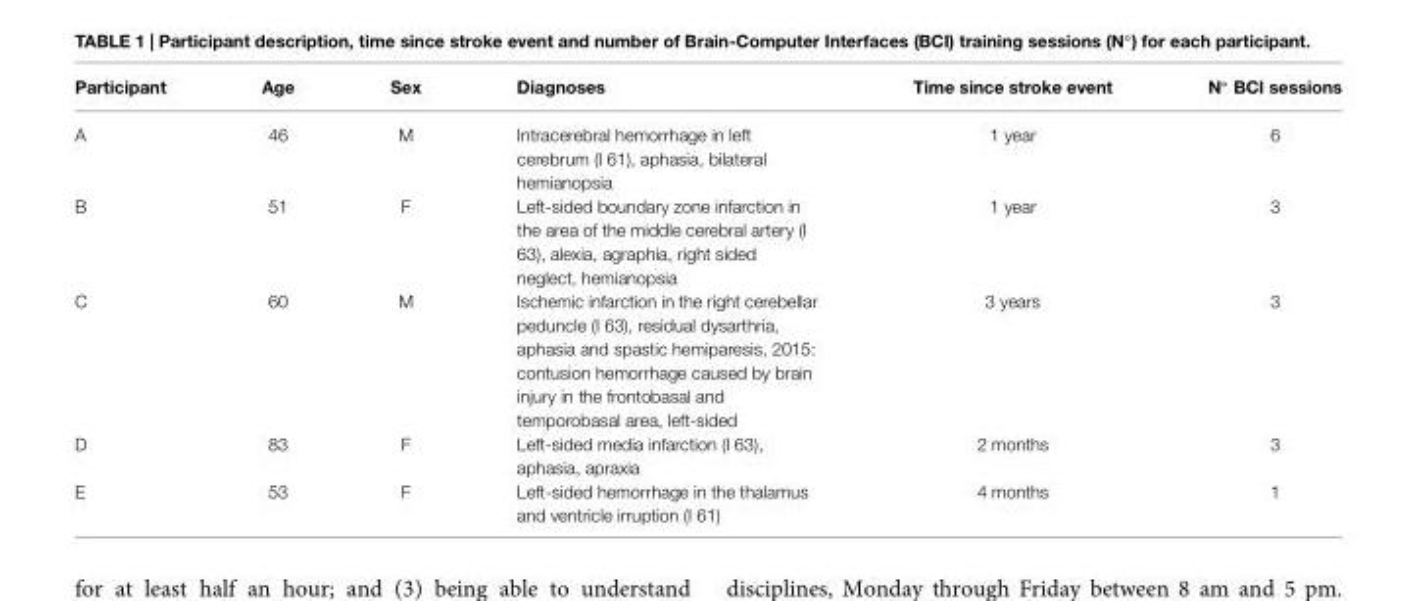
<table><thead><tr><td>Participant</td><td>Age</td><td>Sex</td><td>Diagnoses</td><td>Time since stroke event</td><td>N◦ BCI sessions</td></tr></thead><tbody><tr><td>A</td><td>46</td><td>M</td><td>Intracerebral hemorrhage in left cerebrum (I 61), aphasia, bilateral hemianopsia</td><td>1 year</td><td>6</td></tr><tr><td>B</td><td>51</td><td>F</td><td>Left-sided boundary zone infarction in the area of the middle cerebral artery (I 63), alexia, agraphia, right sided neglect, hemianopsia</td><td>1 year</td><td>3</td></tr><tr><td>C</td><td>60</td><td>M</td><td>Ischemic infarction in the right cerebellar peduncle (I 63), residual dysarthria, aphasia and spastic hemiparesis, 2015: contusion hemorrhage caused by brain injury in the frontobasal and temporobasal area, left-sided</td><td>3 years</td><td>3</td></tr><tr><td>D</td><td>83</td><td>F</td><td>Left-sided media infarction (I 63), aphasia, apraxia</td><td>2 months</td><td>3</td></tr><tr><td>E</td><td>53</td><td>F</td><td>Left-sided hemorrhage in the thalamus and ventricle irruption (I 61)</td><td>4 months</td><td>1</td></tr></tbody></table>